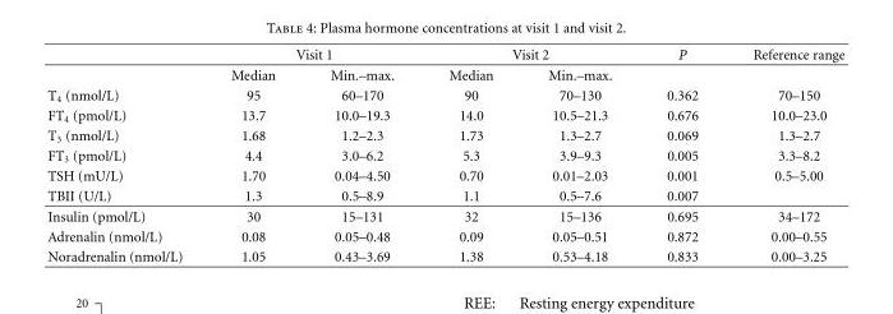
<table><thead><tr><td rowspan="2"></td><td colspan="2">Visit 1</td><td colspan="2">Visit 2</td><td rowspan="2">P</td><td rowspan="2">Reference range</td></tr><tr><td>Median</td><td>Min.–max.</td><td>Median</td><td>Min.–max.</td></tr></thead><tbody><tr><td>T<sub>4</sub> (nmol/L)</td><td>95</td><td>60–170</td><td>90</td><td>70–130</td><td>0.362</td><td>70–150</td></tr><tr><td>FT<sub>4</sub> (pmol/L)</td><td>13.7</td><td>10.0–19.3</td><td>14.0</td><td>10.5–21.3</td><td>0.676</td><td>10.0–23.0</td></tr><tr><td>T<sub>3</sub> (nmol/L)</td><td>1.68</td><td>1.2–2.3</td><td>1.73</td><td>1.3–2.7</td><td>0.069</td><td>1.3–2.7</td></tr><tr><td>FT<sub>3</sub> (pmol/L)</td><td>4.4</td><td>3.0–6.2</td><td>5.3</td><td>3.9–9.3</td><td>0.005</td><td>3.3–8.2</td></tr><tr><td>TSH (mU/L)</td><td>1.70</td><td>0.04–4.50</td><td>0.70</td><td>0.01–2.03</td><td>0.001</td><td>0.5–5.00</td></tr><tr><td>TBII (U/L)</td><td>1.3</td><td>0.5–8.9</td><td>1.1</td><td>0.5–7.6</td><td>0.007</td><td></td></tr><tr><td>Insulin (pmol/L)</td><td>30</td><td>15–131</td><td>32</td><td>15–136</td><td>0.695</td><td>34–172</td></tr><tr><td>Adrenalin (nmol/L)</td><td>0.08</td><td>0.05–0.48</td><td>0.09</td><td>0.05–0.51</td><td>0.872</td><td>0.00–0.55</td></tr><tr><td>Noradrenalin (nmol/L)</td><td>1.05</td><td>0.43–3.69</td><td>1.38</td><td>0.53–4.18</td><td>0.833</td><td>0.00–3.25</td></tr></tbody></table>